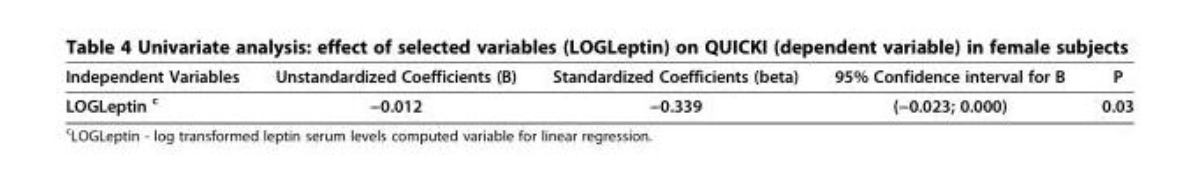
<table><thead><tr><td>Independent Variables</td><td>Unstandardized Coefficients (B)</td><td>Standardized Coefficients (beta)</td><td>95% Confidence interval for B</td><td>P</td></tr></thead><tbody><tr><td>LOGLeptin <sup>c</sup></td><td>−0.012</td><td>−0.339</td><td>(−0.023; 0.000)</td><td>0.03</td></tr></tbody></table>